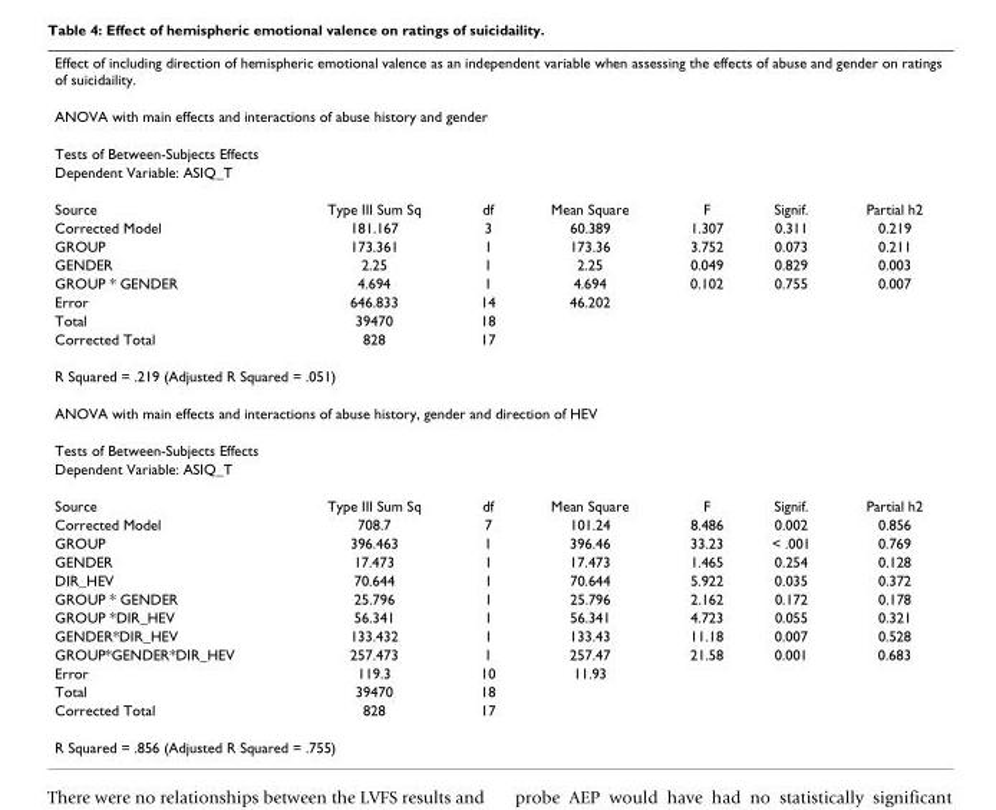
<table><tbody><tr><td colspan="7">Effect of including direction of hemispheric emotional valence as an independent variable when assessing the effects of abuse and gender on ratings of suicidaility.</td></tr><tr><td colspan="7">ANOVA with main effects and interactions of abuse history and gender</td></tr><tr><td colspan="7">Tests of Between-Subjects Effects</td></tr><tr><td colspan="7">Dependent Variable: ASIQ_T</td></tr><tr><td>Source</td><td>Type III Sum Sq</td><td>df</td><td>Mean Square</td><td>F</td><td>Signif.</td><td>Partial h2</td></tr><tr><td>Corrected Model</td><td>181.167</td><td>3</td><td>60.389</td><td>1.307</td><td>0.311</td><td>0.219</td></tr><tr><td>GROUP</td><td>173.361</td><td>1</td><td>173.36</td><td>3.752</td><td>0.073</td><td>0.211</td></tr><tr><td>GENDER</td><td>2.25</td><td>1</td><td>2.25</td><td>0.049</td><td>0.829</td><td>0.003</td></tr><tr><td>GROUP * GENDER</td><td>4.694</td><td>1</td><td>4.694</td><td>0.102</td><td>0.755</td><td>0.007</td></tr><tr><td>Error</td><td>646.833</td><td>14</td><td>46.202</td><td></td><td></td><td></td></tr><tr><td>Total</td><td>39470</td><td>18</td><td></td><td></td><td></td><td></td></tr><tr><td>Corrected Total</td><td>828</td><td>17</td><td></td><td></td><td></td><td></td></tr><tr><td colspan="7">R Squared = .219 (Adjusted R Squared = .051)</td></tr><tr><td colspan="7">ANOVA with main effects and interactions of abuse history, gender and direction of HEV</td></tr><tr><td colspan="7">Tests of Between-Subjects Effects</td></tr><tr><td colspan="7">Dependent Variable: ASIQ_T</td></tr><tr><td>Source</td><td>Type III Sum Sq</td><td>df</td><td>Mean Square</td><td>F</td><td>Signif.</td><td>Partial h2</td></tr><tr><td>Corrected Model</td><td>708.7</td><td>7</td><td>101.24</td><td>8.486</td><td>0.002</td><td>0.856</td></tr><tr><td>GROUP</td><td>396.463</td><td>1</td><td>396.46</td><td>33.23</td><td>&lt; .001</td><td>0.769</td></tr><tr><td>GENDER</td><td>17.473</td><td>1</td><td>17.473</td><td>1.465</td><td>0.254</td><td>0.128</td></tr><tr><td>DIR_HEV</td><td>70.644</td><td>1</td><td>70.644</td><td>5.922</td><td>0.035</td><td>0.372</td></tr><tr><td>GROUP * GENDER</td><td>25.796</td><td>1</td><td>25.796</td><td>2.162</td><td>0.172</td><td>0.178</td></tr><tr><td>GROUP *DIR_HEV</td><td>56.341</td><td>1</td><td>56.341</td><td>4.723</td><td>0.055</td><td>0.321</td></tr><tr><td>GENDER*DIR_HEV</td><td>133.432</td><td>1</td><td>133.43</td><td>11.18</td><td>0.007</td><td>0.528</td></tr><tr><td>GROUP*GENDER*DIR_HEV</td><td>257.473</td><td>1</td><td>257.47</td><td>21.58</td><td>0.001</td><td>0.683</td></tr><tr><td>Error</td><td>119.3</td><td>10</td><td>11.93</td><td></td><td></td><td></td></tr><tr><td>Total</td><td>39470</td><td>18</td><td></td><td></td><td></td><td></td></tr><tr><td>Corrected Total</td><td>828</td><td>17</td><td></td><td></td><td></td><td></td></tr><tr><td colspan="7">R Squared = .856 (Adjusted R Squared = .755)</td></tr></tbody></table>